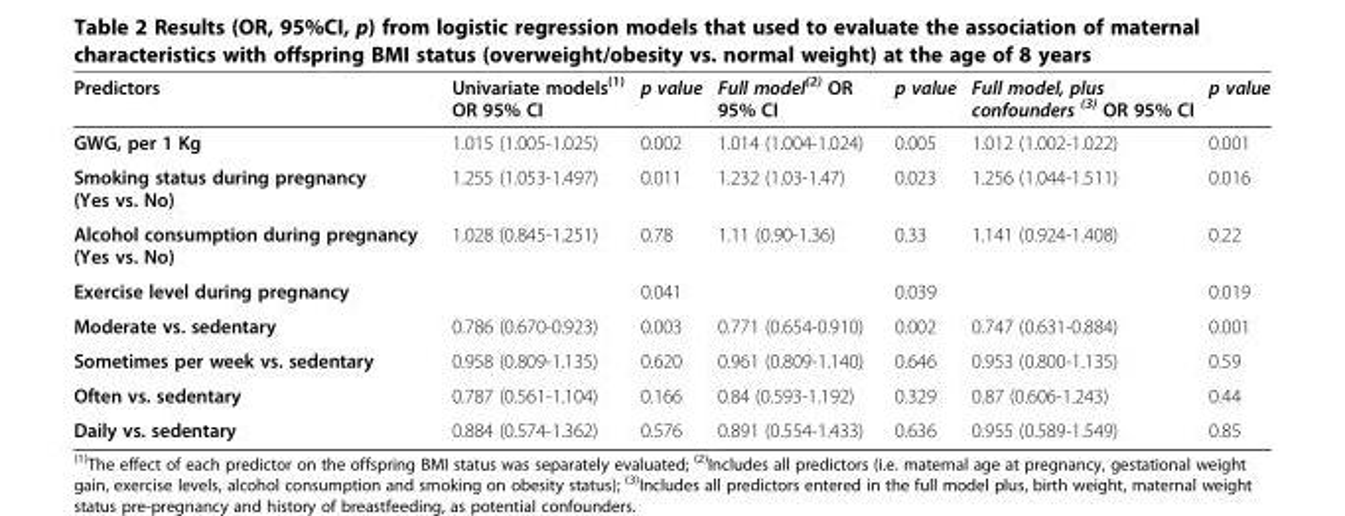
<table><thead><tr><td>Predictors</td><td>Univariate models<sup>(1)</sup> OR 95% CI</td><td>p value</td><td>Full model<sup>(2)</sup> OR 95% CI</td><td>p value</td><td>Full model, plus confounders <sup>(3)</sup> OR 95% CI</td><td>p value</td></tr></thead><tbody><tr><td>GWG, per 1 Kg</td><td>1.015 (1.005-1.025)</td><td>0.002</td><td>1.014 (1.004-1.024)</td><td>0.005</td><td>1.012 (1.002-1.022)</td><td>0.001</td></tr><tr><td>Smoking status during pregnancy (Yes vs. No)</td><td>1.255 (1.053-1.497)</td><td>0.011</td><td>1.232 (1.03-1.47)</td><td>0.023</td><td>1.256 (1.044-1.511)</td><td>0.016</td></tr><tr><td>Alcohol consumption during pregnancy (Yes vs. No)</td><td>1.028 (0.845-1.251)</td><td>0.78</td><td>1.11 (0.90-1.36)</td><td>0.33</td><td>1.141 (0.924-1.408)</td><td>0.22</td></tr><tr><td>Exercise level during pregnancy</td><td></td><td>0.041</td><td></td><td>0.039</td><td></td><td>0.019</td></tr><tr><td>Moderate vs. sedentary</td><td>0.786 (0.670-0.923)</td><td>0.003</td><td>0.771 (0.654-0.910)</td><td>0.002</td><td>0.747 (0.631-0.884)</td><td>0.001</td></tr><tr><td>Sometimes per week vs. sedentary</td><td>0.958 (0.809-1.135)</td><td>0.620</td><td>0.961 (0.809-1.140)</td><td>0.646</td><td>0.953 (0.800-1.135)</td><td>0.59</td></tr><tr><td>Often vs. sedentary</td><td>0.787 (0.561-1.104)</td><td>0.166</td><td>0.84 (0.593-1.192)</td><td>0.329</td><td>0.87 (0.606-1.243)</td><td>0.44</td></tr><tr><td>Daily vs. sedentary</td><td>0.884 (0.574-1.362)</td><td>0.576</td><td>0.891 (0.554-1.433)</td><td>0.636</td><td>0.955 (0.589-1.549)</td><td>0.85</td></tr></tbody></table>